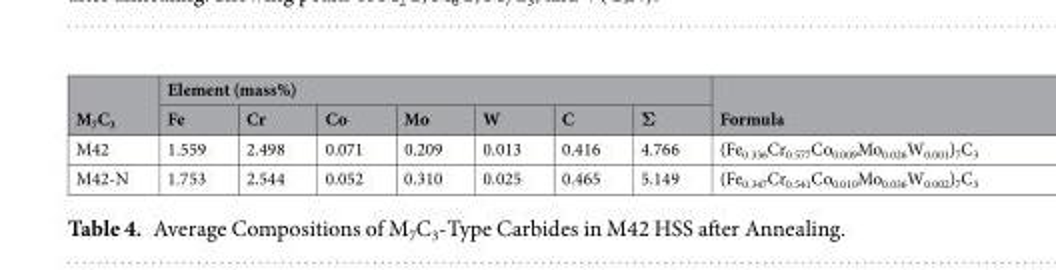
<table><thead><tr><td rowspan="2">M<sub>7</sub>C<sub>3</sub></td><td colspan="7">Element (mass%)</td><td rowspan="2">Formula</td></tr><tr><td>Fe</td><td>Cr</td><td>Co</td><td>Mo</td><td>W</td><td>C</td><td>Σ</td></tr></thead><tbody><tr><td>M42</td><td>1.559</td><td>2.498</td><td>0.071</td><td>0.209</td><td>0.013</td><td>0.416</td><td>4.766</td><td>(Fe<sub>0.336</sub>Cr<sub>0.577</sub>Co<sub>0.009</sub>Mo<sub>0.026</sub>W<sub>0.001</sub>)<sub>7</sub>C<sub>3</sub></td></tr><tr><td>M42-N</td><td>1.753</td><td>2.544</td><td>0.052</td><td>0.310</td><td>0.025</td><td>0.465</td><td>5.149</td><td>(Fe<sub>0.347</sub>Cr<sub>0.541</sub>Co<sub>0.010</sub>Mo<sub>0.036</sub>W<sub>0.002</sub>)<sub>7</sub>C<sub>3</sub></td></tr></tbody></table>